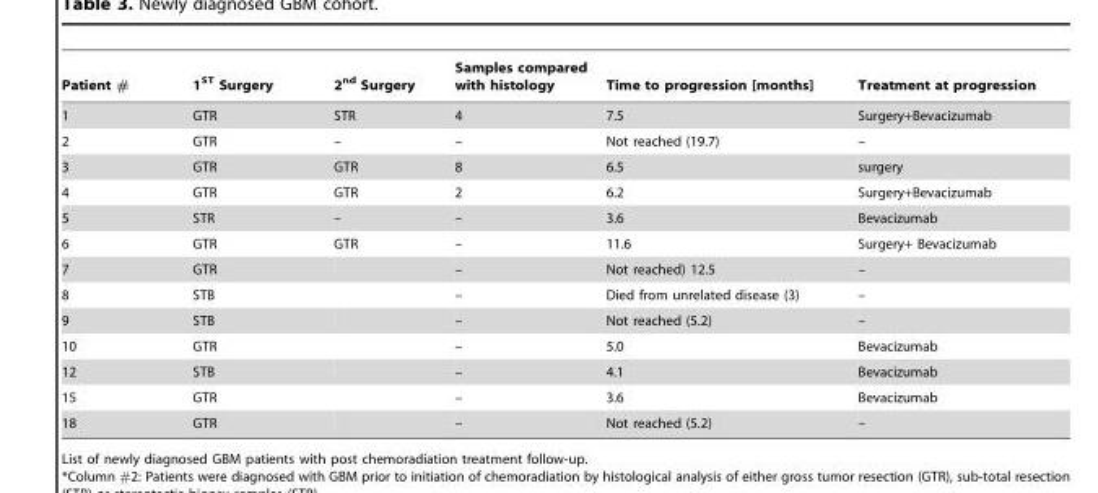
<table><thead><tr><td>Patient #</td><td>1<sup>ST</sup> Surgery</td><td>2<sup>nd</sup> Surgery</td><td>Samples compared with histology</td><td>Time to progression [months]</td><td>Treatment at progression</td></tr></thead><tbody><tr><td>1</td><td>GTR</td><td>STR</td><td>4</td><td>7.5</td><td>Surgery+Bevacizumab</td></tr><tr><td>2</td><td>GTR</td><td>–</td><td>–</td><td>Not reached (19.7)</td><td>–</td></tr><tr><td>3</td><td>GTR</td><td>GTR</td><td>8</td><td>6.5</td><td>surgery</td></tr><tr><td>4</td><td>GTR</td><td>GTR</td><td>2</td><td>6.2</td><td>Surgery+Bevacizumab</td></tr><tr><td>5</td><td>STR</td><td>–</td><td>–</td><td>3.6</td><td>Bevacizumab</td></tr><tr><td>6</td><td>GTR</td><td>GTR</td><td>–</td><td>11.6</td><td>Surgery+ Bevacizumab</td></tr><tr><td>7</td><td>GTR</td><td></td><td>–</td><td>Not reached) 12.5</td><td>–</td></tr><tr><td>8</td><td>STB</td><td></td><td>–</td><td>Died from unrelated disease (3)</td><td>–</td></tr><tr><td>9</td><td>STB</td><td></td><td>–</td><td>Not reached (5.2)</td><td>–</td></tr><tr><td>10</td><td>GTR</td><td></td><td>–</td><td>5.0</td><td>Bevacizumab</td></tr><tr><td>12</td><td>STB</td><td></td><td>–</td><td>4.1</td><td>Bevacizumab</td></tr><tr><td>15</td><td>GTR</td><td></td><td>–</td><td>3.6</td><td>Bevacizumab</td></tr><tr><td>18</td><td>GTR</td><td></td><td>–</td><td>Not reached (5.2)</td><td>–</td></tr></tbody></table>